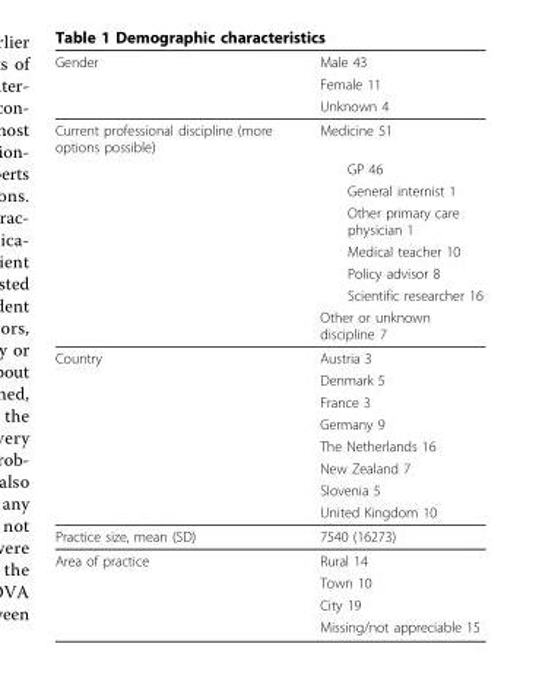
<table><thead><tr><td rowspan="3">Gender</td><td rowspan="3">Male 43 Female 11 Unknown 4</td></tr><tr></tr><tr></tr></thead><tbody><tr><td rowspan="8">Current professional discipline (more options possible)</td><td>Medicine 51</td></tr><tr><td>GP 46</td></tr><tr><td>General internist 1</td></tr><tr><td>Other primary care physician 1</td></tr><tr><td>Medical teacher 10</td></tr><tr><td>Policy advisor 8</td></tr><tr><td>Scientific researcher 16</td></tr><tr><td>Other or unknown discipline 7</td></tr><tr><td rowspan="8">Country</td><td>Austria 3</td></tr><tr><td>Denmark 5</td></tr><tr><td>France 3</td></tr><tr><td>Germany 9</td></tr><tr><td>The Netherlands 16</td></tr><tr><td>New Zealand 7</td></tr><tr><td>Slovenia 5</td></tr><tr><td>United Kingdom 10</td></tr><tr><td>Practice size, mean (SD)</td><td>7540 (16273)</td></tr><tr><td rowspan="4">Area of practice</td><td>Rural 14</td></tr><tr><td>Town 10</td></tr><tr><td>City 19</td></tr><tr><td>Missing/not appreciable 15</td></tr></tbody></table>